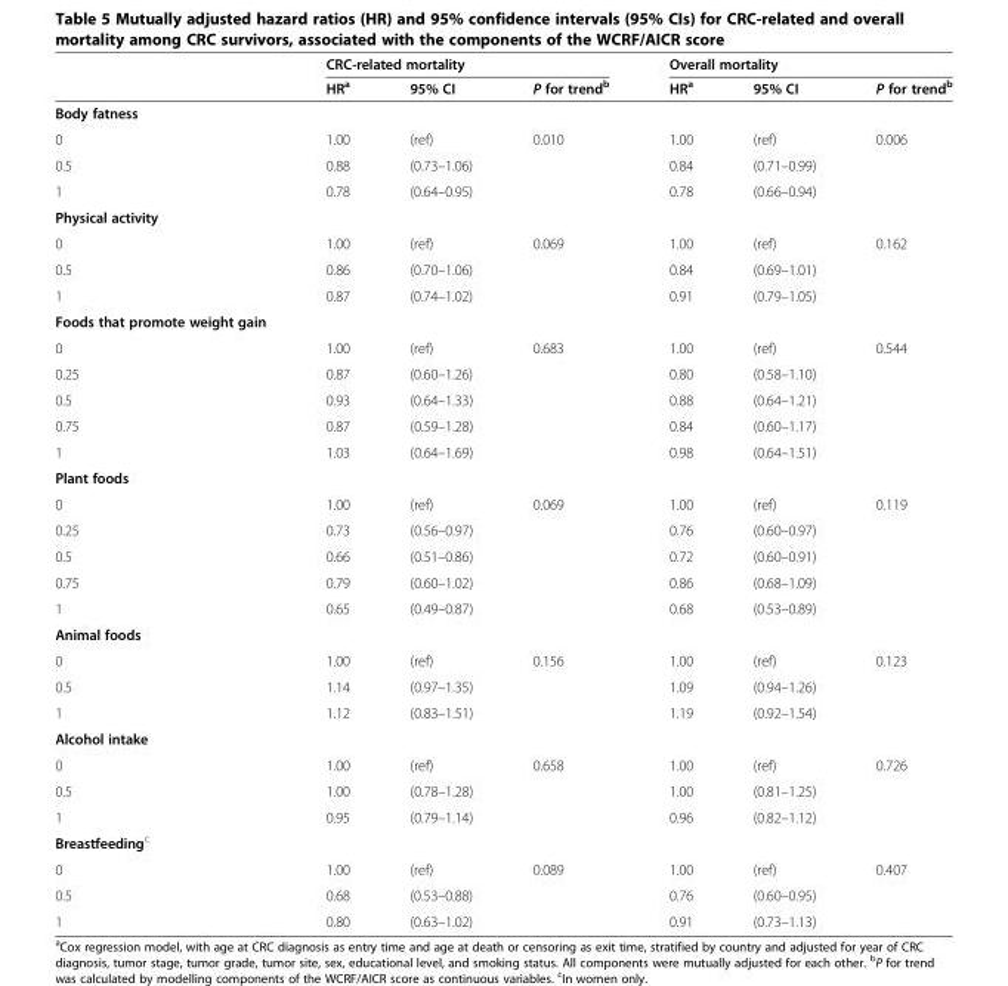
<table><thead><tr><td rowspan="2"></td><td colspan="3">CRC-related mortality</td><td colspan="3">Overall mortality</td></tr><tr><td>HR<sup>a</sup></td><td>95% CI</td><td>P for trend<sup>b</sup></td><td>HR<sup>a</sup></td><td>95% CI</td><td>P for trend<sup>b</sup></td></tr></thead><tbody><tr><td colspan="7">Body fatness</td></tr><tr><td>0</td><td>1.00</td><td>(ref)</td><td>0.010</td><td>1.00</td><td>(ref)</td><td>0.006</td></tr><tr><td>0.5</td><td>0.88</td><td>(0.73–1.06)</td><td></td><td>0.84</td><td>(0.71–0.99)</td><td></td></tr><tr><td>1</td><td>0.78</td><td>(0.64–0.95)</td><td></td><td>0.78</td><td>(0.66–0.94)</td><td></td></tr><tr><td colspan="7">Physical activity</td></tr><tr><td>0</td><td>1.00</td><td>(ref)</td><td>0.069</td><td>1.00</td><td>(ref)</td><td>0.162</td></tr><tr><td>0.5</td><td>0.86</td><td>(0.70–1.06)</td><td></td><td>0.84</td><td>(0.69–1.01)</td><td></td></tr><tr><td>1</td><td>0.87</td><td>(0.74–1.02)</td><td></td><td>0.91</td><td>(0.79–1.05)</td><td></td></tr><tr><td colspan="7">Foods that promote weight gain</td></tr><tr><td>0</td><td>1.00</td><td>(ref)</td><td>0.683</td><td>1.00</td><td>(ref)</td><td>0.544</td></tr><tr><td>0.25</td><td>0.87</td><td>(0.60–1.26)</td><td></td><td>0.80</td><td>(0.58–1.10)</td><td></td></tr><tr><td>0.5</td><td>0.93</td><td>(0.64–1.33)</td><td></td><td>0.88</td><td>(0.64–1.21)</td><td></td></tr><tr><td>0.75</td><td>0.87</td><td>(0.59–1.28)</td><td></td><td>0.84</td><td>(0.60–1.17)</td><td></td></tr><tr><td>1</td><td>1.03</td><td>(0.64–1.69)</td><td></td><td>0.98</td><td>(0.64–1.51)</td><td></td></tr><tr><td colspan="7">Plant foods</td></tr><tr><td>0</td><td>1.00</td><td>(ref)</td><td>0.069</td><td>1.00</td><td>(ref)</td><td>0.119</td></tr><tr><td>0.25</td><td>0.73</td><td>(0.56–0.97)</td><td></td><td>0.76</td><td>(0.60–0.97)</td><td></td></tr><tr><td>0.5</td><td>0.66</td><td>(0.51–0.86)</td><td></td><td>0.72</td><td>(0.60–0.91)</td><td></td></tr><tr><td>0.75</td><td>0.79</td><td>(0.60–1.02)</td><td></td><td>0.86</td><td>(0.68–1.09)</td><td></td></tr><tr><td>1</td><td>0.65</td><td>(0.49–0.87)</td><td></td><td>0.68</td><td>(0.53–0.89)</td><td></td></tr><tr><td colspan="7">Animal foods</td></tr><tr><td>0</td><td>1.00</td><td>(ref)</td><td>0.156</td><td>1.00</td><td>(ref)</td><td>0.123</td></tr><tr><td>0.5</td><td>1.14</td><td>(0.97–1.35)</td><td></td><td>1.09</td><td>(0.94–1.26)</td><td></td></tr><tr><td>1</td><td>1.12</td><td>(0.83–1.51)</td><td></td><td>1.19</td><td>(0.92–1.54)</td><td></td></tr><tr><td colspan="7">Alcohol intake</td></tr><tr><td>0</td><td>1.00</td><td>(ref)</td><td>0.658</td><td>1.00</td><td>(ref)</td><td>0.726</td></tr><tr><td>0.5</td><td>1.00</td><td>(0.78–1.28)</td><td></td><td>1.00</td><td>(0.81–1.25)</td><td></td></tr><tr><td>1</td><td>0.95</td><td>(0.79–1.14)</td><td></td><td>0.96</td><td>(0.82–1.12)</td><td></td></tr><tr><td colspan="7">Breastfeeding<sup>c</sup></td></tr><tr><td>0</td><td>1.00</td><td>(ref)</td><td>0.089</td><td>1.00</td><td>(ref)</td><td>0.407</td></tr><tr><td>0.5</td><td>0.68</td><td>(0.53–0.88)</td><td></td><td>0.76</td><td>(0.60–0.95)</td><td></td></tr><tr><td>1</td><td>0.80</td><td>(0.63–1.02)</td><td></td><td>0.91</td><td>(0.73–1.13)</td><td></td></tr></tbody></table>